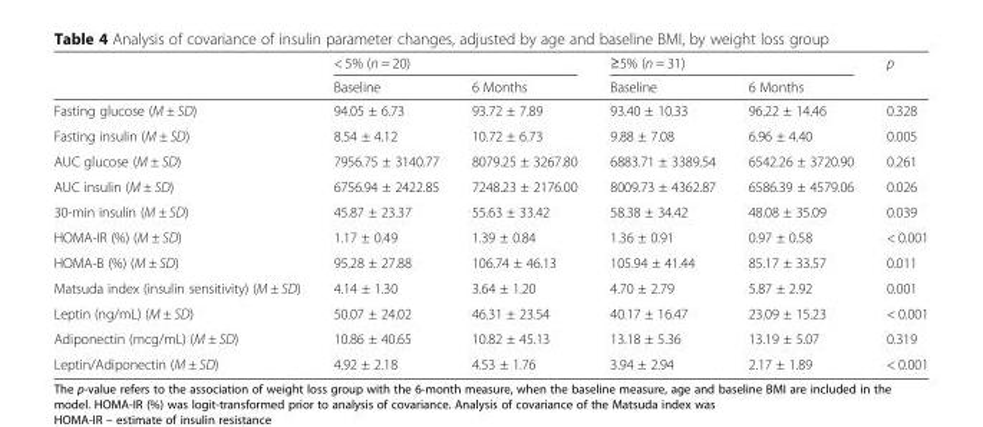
<table><thead><tr><td rowspan="2"></td><td colspan="2">&lt; 5% (n = 20)</td><td colspan="2">≥5% (n = 31)</td><td rowspan="2">p</td></tr><tr><td>Baseline</td><td>6 Months</td><td>Baseline</td><td>6 Months</td></tr></thead><tbody><tr><td>Fasting glucose (M ± SD)</td><td>94.05 ± 6.73</td><td>93.72 ± 7.89</td><td>93.40 ± 10.33</td><td>96.22 ± 14.46</td><td>0.328</td></tr><tr><td>Fasting insulin (M ± SD)</td><td>8.54 ± 4.12</td><td>10.72 ± 6.73</td><td>9.88 ± 7.08</td><td>6.96 ± 4.40</td><td>0.005</td></tr><tr><td>AUC glucose (M ± SD)</td><td>7956.75 ± 3140.77</td><td>8079.25 ± 3267.80</td><td>6883.71 ± 3389.54</td><td>6542.26 ± 3720.90</td><td>0.261</td></tr><tr><td>AUC insulin (M ± SD)</td><td>6756.94 ± 2422.85</td><td>7248.23 ± 2176.00</td><td>8009.73 ± 4362.87</td><td>6586.39 ± 4579.06</td><td>0.026</td></tr><tr><td>30-min insulin (M ± SD)</td><td>45.87 ± 23.37</td><td>55.63 ± 33.42</td><td>58.38 ± 34.42</td><td>48.08 ± 35.09</td><td>0.039</td></tr><tr><td>HOMA-IR (%) (M ± SD)</td><td>1.17 ± 0.49</td><td>1.39 ± 0.84</td><td>1.36 ± 0.91</td><td>0.97 ± 0.58</td><td>&lt; 0.001</td></tr><tr><td>HOMA-B (%) (M ± SD)</td><td>95.28 ± 27.88</td><td>106.74 ± 46.13</td><td>105.94 ± 41.44</td><td>85.17 ± 33.57</td><td>0.011</td></tr><tr><td>Matsuda index (insulin sensitivity) (M ± SD)</td><td>4.14 ± 1.30</td><td>3.64 ± 1.20</td><td>4.70 ± 2.79</td><td>5.87 ± 2.92</td><td>0.001</td></tr><tr><td>Leptin (ng/mL) (M ± SD)</td><td>50.07 ± 24.02</td><td>46.31 ± 23.54</td><td>40.17 ± 16.47</td><td>23.09 ± 15.23</td><td>&lt; 0.001</td></tr><tr><td>Adiponectin (mcg/mL) (M ± SD)</td><td>10.86 ± 40.65</td><td>10.82 ± 45.13</td><td>13.18 ± 5.36</td><td>13.19 ± 5.07</td><td>0.319</td></tr><tr><td>Leptin/Adiponectin (M ± SD)</td><td>4.92 ± 2.18</td><td>4.53 ± 1.76</td><td>3.94 ± 2.94</td><td>2.17 ± 1.89</td><td>&lt; 0.001</td></tr></tbody></table>